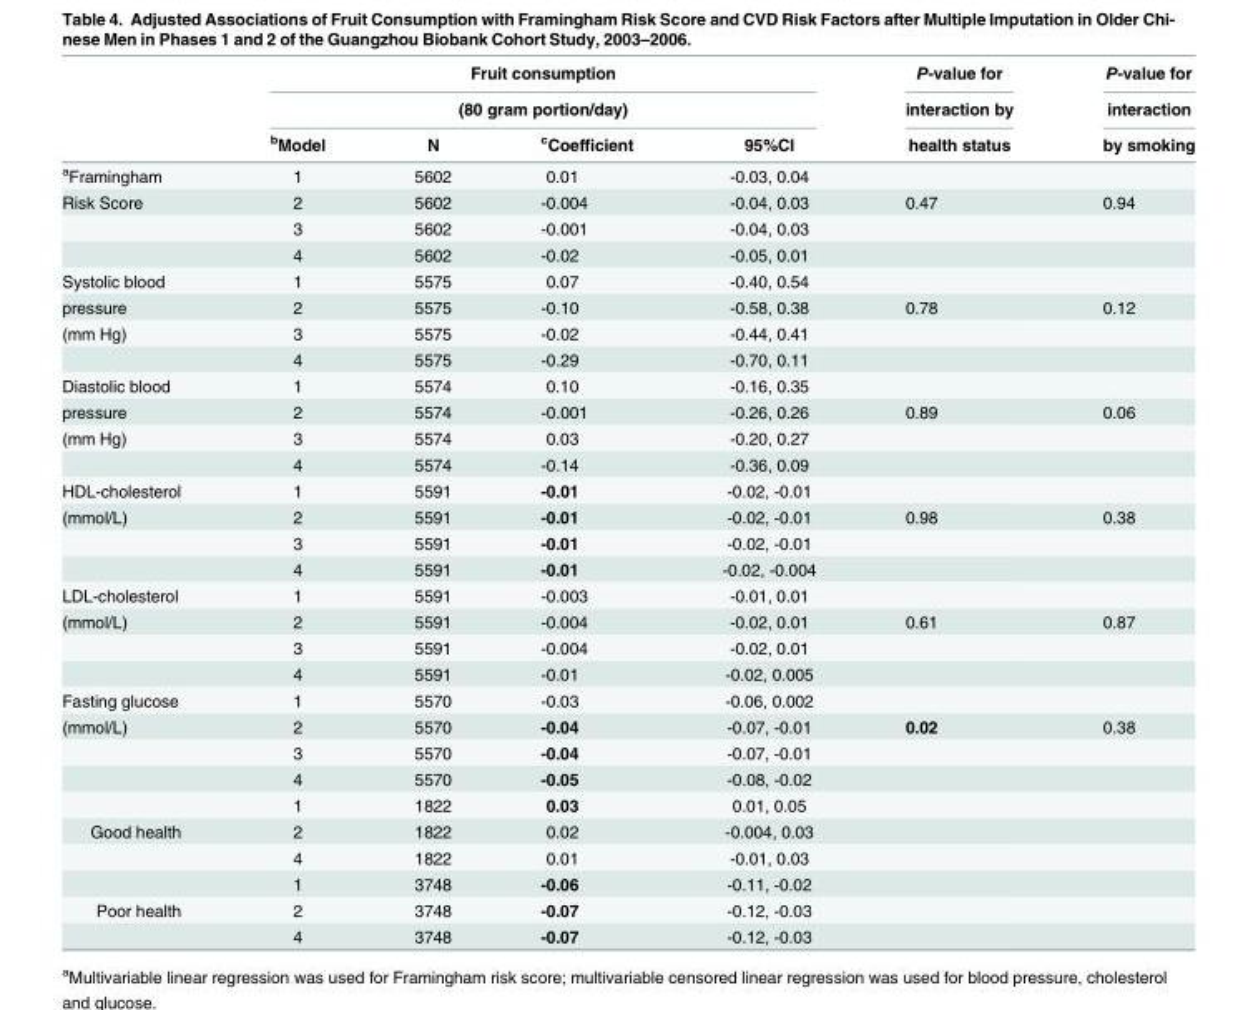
<table><thead><tr><td rowspan="3"></td><td rowspan="2" colspan="4">Fruit consumption (80 gram portion/day)</td><td rowspan="3">P-value for interaction by health status</td><td rowspan="3">P-value for interaction by smoking</td></tr><tr></tr><tr><td><sup>b</sup>Model</td><td>N</td><td><sup>c</sup>Coefficient</td><td>95%CI</td></tr></thead><tbody><tr><td><sup>a</sup>Framingham</td><td>1</td><td>5602</td><td>0.01</td><td>-0.03, 0.04</td><td></td><td></td></tr><tr><td rowspan="3">Risk Score</td><td>2</td><td>5602</td><td>-0.004</td><td>-0.04, 0.03</td><td>0.47</td><td>0.94</td></tr><tr><td>3</td><td>5602</td><td>-0.001</td><td>-0.04, 0.03</td><td></td><td></td></tr><tr><td>4</td><td>5602</td><td>-0.02</td><td>-0.05, 0.01</td><td></td><td></td></tr><tr><td>Systolic blood</td><td>1</td><td>5575</td><td>0.07</td><td>-0.40, 0.54</td><td></td><td></td></tr><tr><td>pressure</td><td>2</td><td>5575</td><td>-0.10</td><td>-0.58, 0.38</td><td>0.78</td><td>0.12</td></tr><tr><td rowspan="2">(mm Hg)</td><td>3</td><td>5575</td><td>-0.02</td><td>-0.44, 0.41</td><td></td><td></td></tr><tr><td>4</td><td>5575</td><td>-0.29</td><td>-0.70, 0.11</td><td></td><td></td></tr><tr><td>Diastolic blood</td><td>1</td><td>5574</td><td>0.10</td><td>-0.16, 0.35</td><td></td><td></td></tr><tr><td>pressure</td><td>2</td><td>5574</td><td>-0.001</td><td>-0.26, 0.26</td><td>0.89</td><td>0.06</td></tr><tr><td rowspan="2">(mm Hg)</td><td>3</td><td>5574</td><td>0.03</td><td>-0.20, 0.27</td><td></td><td></td></tr><tr><td>4</td><td>5574</td><td>-0.14</td><td>-0.36, 0.09</td><td></td><td></td></tr><tr><td>HDL-cholesterol</td><td>1</td><td>5591</td><td>-0.01</td><td>-0.02, -0.01</td><td></td><td></td></tr><tr><td rowspan="3">(mmol/L)</td><td>2</td><td>5591</td><td>-0.01</td><td>-0.02, -0.01</td><td>0.98</td><td>0.38</td></tr><tr><td>3</td><td>5591</td><td>-0.01</td><td>-0.02, -0.01</td><td></td><td></td></tr><tr><td>4</td><td>5591</td><td>-0.01</td><td>-0.02, -0.004</td><td></td><td></td></tr><tr><td>LDL-cholesterol</td><td>1</td><td>5591</td><td>-0.003</td><td>-0.01, 0.01</td><td></td><td></td></tr><tr><td rowspan="3">(mmol/L)</td><td>2</td><td>5591</td><td>-0.004</td><td>-0.02, 0.01</td><td>0.61</td><td>0.87</td></tr><tr><td>3</td><td>5591</td><td>-0.004</td><td>-0.02, 0.01</td><td></td><td></td></tr><tr><td>4</td><td>5591</td><td>-0.01</td><td>-0.02, 0.005</td><td></td><td></td></tr><tr><td>Fasting glucose</td><td>1</td><td>5570</td><td>-0.03</td><td>-0.06, 0.002</td><td></td><td></td></tr><tr><td rowspan="4">(mmol/L)</td><td>2</td><td>5570</td><td>-0.04</td><td>-0.07, -0.01</td><td>0.02</td><td>0.38</td></tr><tr><td>3</td><td>5570</td><td>-0.04</td><td>-0.07, -0.01</td><td></td><td></td></tr><tr><td>4</td><td>5570</td><td>-0.05</td><td>-0.08, -0.02</td><td></td><td></td></tr><tr><td>1</td><td>1822</td><td>0.03</td><td>0.01, 0.05</td><td></td><td></td></tr><tr><td rowspan="3">Good health</td><td>2</td><td>1822</td><td>0.02</td><td>-0.004, 0.03</td><td></td><td></td></tr><tr><td>4</td><td>1822</td><td>0.01</td><td>-0.01, 0.03</td><td></td><td></td></tr><tr><td>1</td><td>3748</td><td>-0.06</td><td>-0.11, -0.02</td><td></td><td></td></tr><tr><td rowspan="2">Poor health</td><td>2</td><td>3748</td><td>-0.07</td><td>-0.12, -0.03</td><td></td><td></td></tr><tr><td>4</td><td>3748</td><td>-0.07</td><td>-0.12, -0.03</td><td></td><td></td></tr></tbody></table>